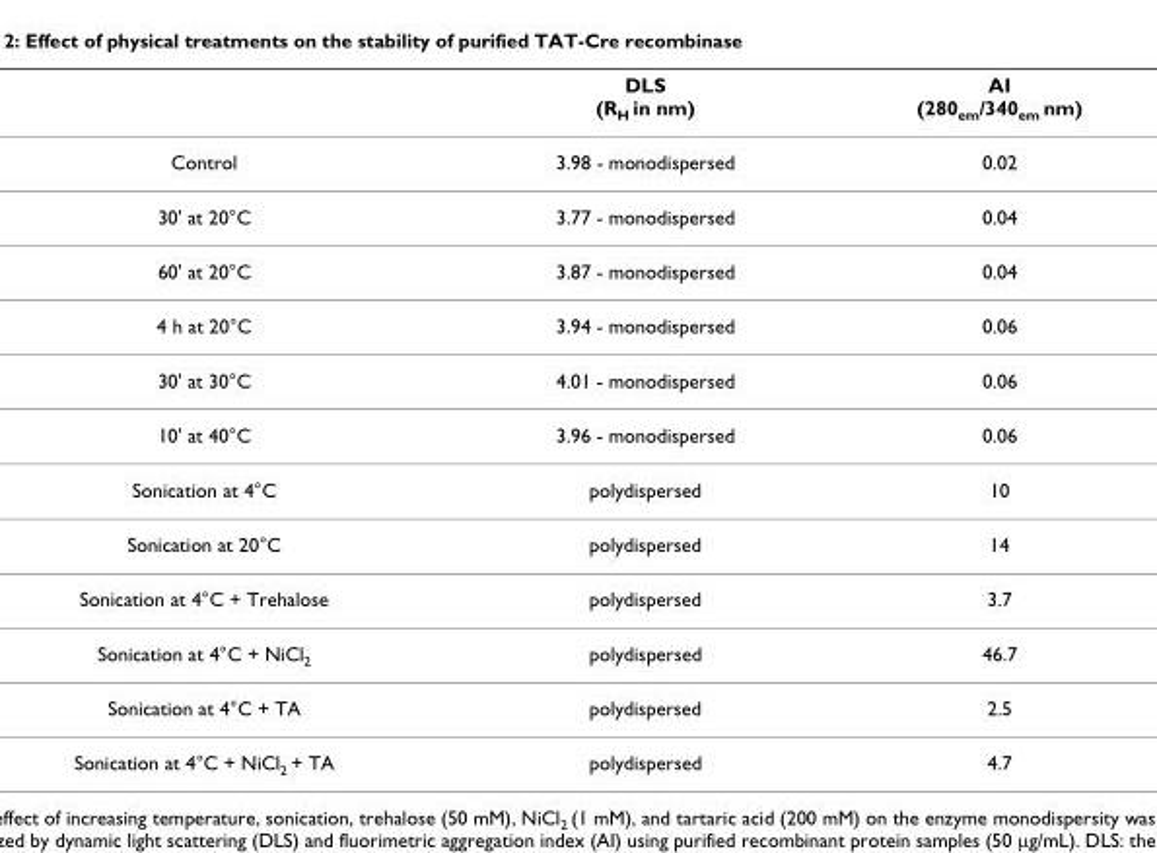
<table><thead><tr><td></td><td>DLS (RH in nm)</td><td>AI (280em/340em nm)</td></tr></thead><tbody><tr><td>Control</td><td>3.98 - monodispersed</td><td>0.02</td></tr><tr><td>30&#x27; at 20°C</td><td>3.77 - monodispersed</td><td>0.04</td></tr><tr><td>60&#x27; at 20°C</td><td>3.87 - monodispersed</td><td>0.04</td></tr><tr><td>4 h at 20°C</td><td>3.94 - monodispersed</td><td>0.06</td></tr><tr><td>30&#x27; at 30°C</td><td>4.01 - monodispersed</td><td>0.06</td></tr><tr><td>10&#x27; at 40°C</td><td>3.96 - monodispersed</td><td>0.06</td></tr><tr><td>Sonication at 4°C</td><td>polydispersed</td><td>10</td></tr><tr><td>Sonication at 20°C</td><td>polydispersed</td><td>14</td></tr><tr><td>Sonication at 4°C + Trehalose</td><td>polydispersed</td><td>3.7</td></tr><tr><td>Sonication at 4°C + NiCl2</td><td>polydispersed</td><td>46.7</td></tr><tr><td>Sonication at 4°C + TA</td><td>polydispersed</td><td>2.5</td></tr><tr><td>Sonication at 4°C + NiCl2 + TA</td><td>polydispersed</td><td>4.7</td></tr></tbody></table>